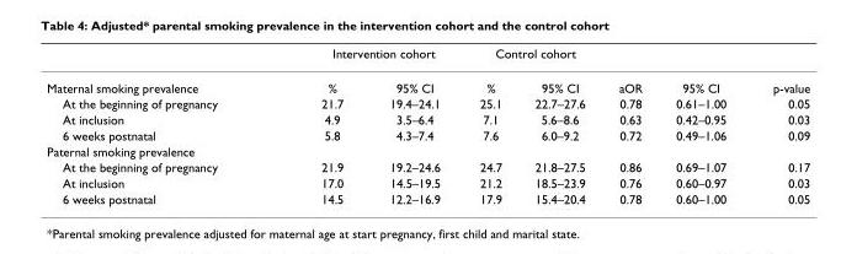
<table><thead><tr><td rowspan="2">Maternal smoking prevalence</td><td colspan="2">Intervention cohort</td><td colspan="2">Control cohort</td><td rowspan="2">aOR</td><td rowspan="2">95% CI</td><td rowspan="2">p-value</td></tr><tr><td>%</td><td>95% CI</td><td>%</td><td>95% CI</td></tr></thead><tbody><tr><td>At the beginning of pregnancy</td><td>21.7</td><td>19.4–24.1</td><td>25.1</td><td>22.7–27.6</td><td>0.78</td><td>0.61–1.00</td><td>0.05</td></tr><tr><td>At inclusion</td><td>4.9</td><td>3.5–6.4</td><td>7.1</td><td>5.6–8.6</td><td>0.63</td><td>0.42–0.95</td><td>0.03</td></tr><tr><td>6 weeks postnatal</td><td>5.8</td><td>4.3–7.4</td><td>7.6</td><td>6.0–9.2</td><td>0.72</td><td>0.49–1.06</td><td>0.09</td></tr><tr><td colspan="8">Paternal smoking prevalence</td></tr><tr><td>At the beginning of pregnancy</td><td>21.9</td><td>19.2–24.6</td><td>24.7</td><td>21.8–27.5</td><td>0.86</td><td>0.69–1.07</td><td>0.17</td></tr><tr><td>At inclusion</td><td>17.0</td><td>14.5–19.5</td><td>21.2</td><td>18.5–23.9</td><td>0.76</td><td>0.60–0.97</td><td>0.03</td></tr><tr><td>6 weeks postnatal</td><td>14.5</td><td>12.2–16.9</td><td>17.9</td><td>15.4–20.4</td><td>0.78</td><td>0.60–1.00</td><td>0.05</td></tr></tbody></table>